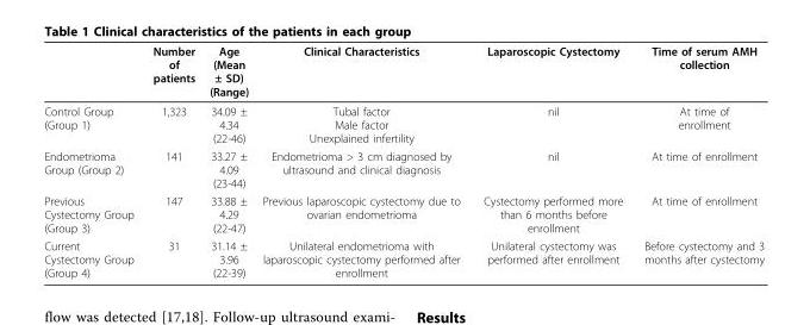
<table><thead><tr><td></td><td>Number of patients</td><td>Age (Mean ± SD) (Range)</td><td>Clinical Characteristics</td><td>Laparoscopic Cystectomy</td><td>Time of serum AMH collection</td></tr></thead><tbody><tr><td>Control Group (Group 1)</td><td>1,323</td><td>34.09 ± 4.34 (22-46)</td><td>Tubal factor Male factor Unexplained infertility</td><td>nil</td><td>At time of enrollment</td></tr><tr><td>Endometrioma Group (Group 2)</td><td>141</td><td>33.27 ± 4.09 (23-44)</td><td>Endometrioma &gt; 3 cm diagnosed by ultrasound and clinical diagnosis</td><td>nil</td><td>At time of enrollment</td></tr><tr><td>Previous Cystectomy Group (Group 3)</td><td>147</td><td>33.88 ± 4.29 (22-47)</td><td>Previous laparoscopic cystectomy due to ovarian endometrioma</td><td>Cystectomy performed more than 6 months before enrollment</td><td>At time of enrollment</td></tr><tr><td>Current Cystectomy Group (Group 4)</td><td>31</td><td>31.14 ± 3.96 (22-39)</td><td>Unilateral endometrioma with laparoscopic cystectomy performed after enrollment</td><td>Unilateral cystectomy was performed after enrollment</td><td>Before cystectomy and 3 months after cystectomy</td></tr></tbody></table>